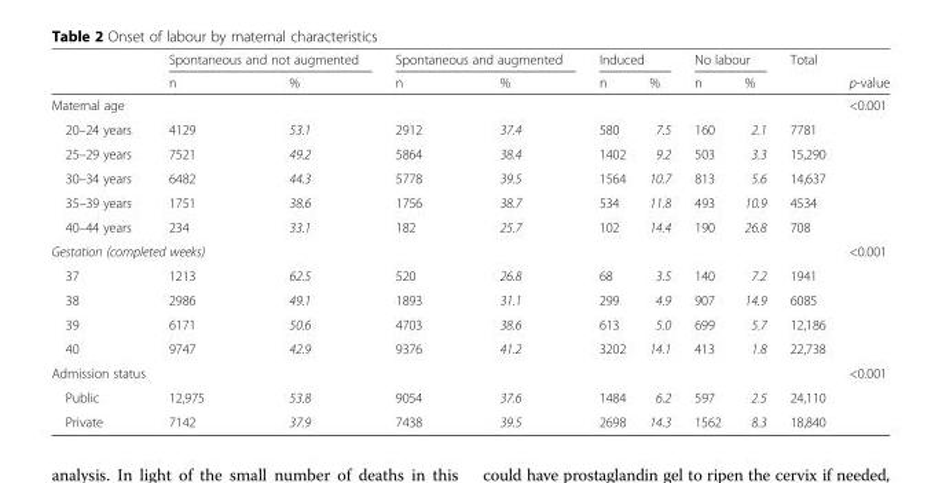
<table><thead><tr><td rowspan="2"></td><td colspan="2">Spontaneous and not augmented</td><td colspan="2">Spontaneous and augmented</td><td colspan="2">Induced</td><td colspan="2">No labour</td><td rowspan="2">Total</td><td rowspan="2">p-value</td></tr><tr><td>n</td><td>%</td><td>n</td><td>%</td><td>n</td><td>%</td><td>n</td><td>%</td></tr></thead><tbody><tr><td>Maternal age</td><td></td><td></td><td></td><td></td><td></td><td></td><td></td><td></td><td></td><td>&lt;0.001</td></tr><tr><td>20–24 years</td><td>4129</td><td>53.1</td><td>2912</td><td>37.4</td><td>580</td><td>7.5</td><td>160</td><td>2.1</td><td>7781</td><td></td></tr><tr><td>25–29 years</td><td>7521</td><td>49.2</td><td>5864</td><td>38.4</td><td>1402</td><td>9.2</td><td>503</td><td>3.3</td><td>15,290</td><td></td></tr><tr><td>30–34 years</td><td>6482</td><td>44.3</td><td>5778</td><td>39.5</td><td>1564</td><td>10.7</td><td>813</td><td>5.6</td><td>14,637</td><td></td></tr><tr><td>35–39 years</td><td>1751</td><td>38.6</td><td>1756</td><td>38.7</td><td>534</td><td>11.8</td><td>493</td><td>10.9</td><td>4534</td><td></td></tr><tr><td>40–44 years</td><td>234</td><td>33.1</td><td>182</td><td>25.7</td><td>102</td><td>14.4</td><td>190</td><td>26.8</td><td>708</td><td></td></tr><tr><td colspan="3">Gestation (completed weeks)</td><td></td><td></td><td></td><td></td><td></td><td></td><td></td><td>&lt;0.001</td></tr><tr><td>37</td><td>1213</td><td>62.5</td><td>520</td><td>26.8</td><td>68</td><td>3.5</td><td>140</td><td>7.2</td><td>1941</td><td></td></tr><tr><td>38</td><td>2986</td><td>49.1</td><td>1893</td><td>31.1</td><td>299</td><td>4.9</td><td>907</td><td>14.9</td><td>6085</td><td></td></tr><tr><td>39</td><td>6171</td><td>50.6</td><td>4703</td><td>38.6</td><td>613</td><td>5.0</td><td>699</td><td>5.7</td><td>12,186</td><td></td></tr><tr><td>40</td><td>9747</td><td>42.9</td><td>9376</td><td>41.2</td><td>3202</td><td>14.1</td><td>413</td><td>1.8</td><td>22,738</td><td></td></tr><tr><td>Admission status</td><td></td><td></td><td></td><td></td><td></td><td></td><td></td><td></td><td></td><td>&lt;0.001</td></tr><tr><td>Public</td><td>12,975</td><td>53.8</td><td>9054</td><td>37.6</td><td>1484</td><td>6.2</td><td>597</td><td>2.5</td><td>24,110</td><td></td></tr><tr><td>Private</td><td>7142</td><td>37.9</td><td>7438</td><td>39.5</td><td>2698</td><td>14.3</td><td>1562</td><td>8.3</td><td>18,840</td><td></td></tr></tbody></table>